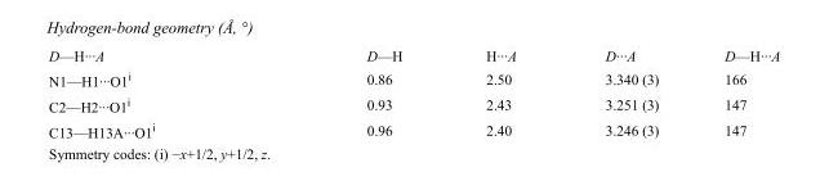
<table><tbody><tr><td>D—H···A</td><td>D—H</td><td>H···A</td><td>D···A</td><td>D—H···A</td></tr><tr><td>N1—H1···O1<sup>i</sup></td><td>0.86</td><td>2.50</td><td>3.340 (3)</td><td>166</td></tr><tr><td>C2—H2···O1<sup>i</sup></td><td>0.93</td><td>2.43</td><td>3.251 (3)</td><td>147</td></tr><tr><td>C13—H13A···O1<sup>i</sup></td><td>0.96</td><td>2.40</td><td>3.246 (3)</td><td>147</td></tr></tbody></table>